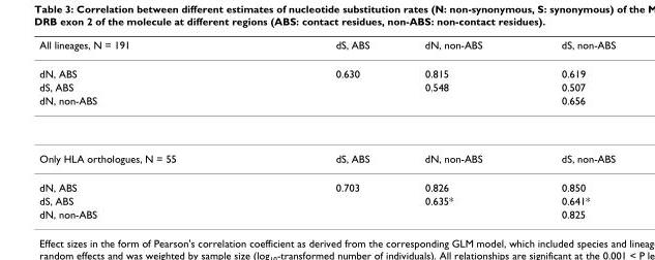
<table><thead><tr><td>All lineages, N = 191</td><td>dS, ABS</td><td>dN, non-ABS</td><td>dS, non-ABS</td></tr></thead><tbody><tr><td>dN, ABS</td><td>0.630</td><td>0.815</td><td>0.619</td></tr><tr><td>dS, ABS</td><td></td><td>0.548</td><td>0.507</td></tr><tr><td>dN, non-ABS</td><td></td><td></td><td>0.656</td></tr><tr><td>Only HLA orthologues, N = 55</td><td>dS, ABS</td><td>dN, non-ABS</td><td>dS, non-ABS</td></tr><tr><td>dN, ABS</td><td>0.703</td><td>0.826</td><td>0.850</td></tr><tr><td>dS, ABS</td><td></td><td>0.635*</td><td>0.641*</td></tr><tr><td>dN, non-ABS</td><td></td><td></td><td>0.825</td></tr></tbody></table>